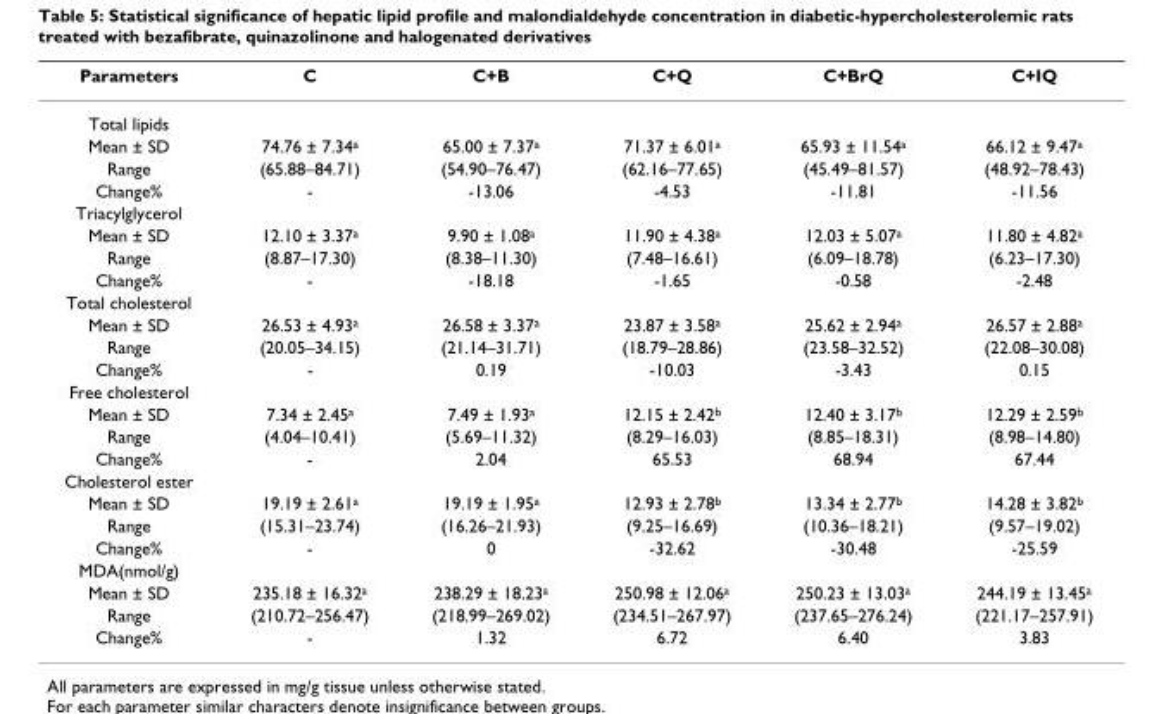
<table><thead><tr><td>Parameters</td><td>C</td><td>C+B</td><td>C+Q</td><td>C+BrQ</td><td>C+IQ</td></tr></thead><tbody><tr><td colspan="6">Total lipids</td></tr><tr><td>Mean ± SD</td><td>74.76 ± 7.34<sup>a</sup></td><td>65.00 ± 7.37<sup>a</sup></td><td>71.37 ± 6.01<sup>a</sup></td><td>65.93 ± 11.54<sup>a</sup></td><td>66.12 ± 9.47<sup>a</sup></td></tr><tr><td>Range</td><td>(65.88–84.71)</td><td>(54.90–76.47)</td><td>(62.16–77.65)</td><td>(45.49–81.57)</td><td>(48.92–78.43)</td></tr><tr><td>Change%</td><td>-</td><td>-13.06</td><td>-4.53</td><td>-11.81</td><td>-11.56</td></tr><tr><td colspan="6">Triacylglycerol</td></tr><tr><td>Mean ± SD</td><td>12.10 ± 3.37<sup>a</sup></td><td>9.90 ± 1.08<sup>a</sup></td><td>11.90 ± 4.38<sup>a</sup></td><td>12.03 ± 5.07<sup>a</sup></td><td>11.80 ± 4.82<sup>a</sup></td></tr><tr><td>Range</td><td>(8.87–17.30)</td><td>(8.38–11.30)</td><td>(7.48–16.61)</td><td>(6.09–18.78)</td><td>(6.23–17.30)</td></tr><tr><td>Change%</td><td>-</td><td>-18.18</td><td>-1.65</td><td>-0.58</td><td>-2.48</td></tr><tr><td colspan="6">Total cholesterol</td></tr><tr><td>Mean ± SD</td><td>26.53 ± 4.93<sup>a</sup></td><td>26.58 ± 3.37<sup>a</sup></td><td>23.87 ± 3.58<sup>a</sup></td><td>25.62 ± 2.94<sup>a</sup></td><td>26.57 ± 2.88<sup>a</sup></td></tr><tr><td>Range</td><td>(20.05–34.15)</td><td>(21.14–31.71)</td><td>(18.79–28.86)</td><td>(23.58–32.52)</td><td>(22.08–30.08)</td></tr><tr><td>Change%</td><td>-</td><td>0.19</td><td>-10.03</td><td>-3.43</td><td>0.15</td></tr><tr><td colspan="6">Free cholesterol</td></tr><tr><td>Mean ± SD</td><td>7.34 ± 2.45<sup>a</sup></td><td>7.49 ± 1.93<sup>a</sup></td><td>12.15 ± 2.42<sup>b</sup></td><td>12.40 ± 3.17<sup>b</sup></td><td>12.29 ± 2.59<sup>b</sup></td></tr><tr><td>Range</td><td>(4.04–10.41)</td><td>(5.69–11.32)</td><td>(8.29–16.03)</td><td>(8.85–18.31)</td><td>(8.98–14.80)</td></tr><tr><td>Change%</td><td>-</td><td>2.04</td><td>65.53</td><td>68.94</td><td>67.44</td></tr><tr><td colspan="6">Cholesterol ester</td></tr><tr><td>Mean ± SD</td><td>19.19 ± 2.61<sup>a</sup></td><td>19.19 ± 1.95<sup>a</sup></td><td>12.93 ± 2.78<sup>b</sup></td><td>13.34 ± 2.77<sup>b</sup></td><td>14.28 ± 3.82<sup>b</sup></td></tr><tr><td>Range</td><td>(15.31–23.74)</td><td>(16.26–21.93)</td><td>(9.25–16.69)</td><td>(10.36–18.21)</td><td>(9.57–19.02)</td></tr><tr><td>Change%</td><td>-</td><td>0</td><td>-32.62</td><td>-30.48</td><td>-25.59</td></tr><tr><td colspan="6">MDA(nmol/g)</td></tr><tr><td>Mean ± SD</td><td>235.18 ± 16.32<sup>a</sup></td><td>238.29 ± 18.23<sup>a</sup></td><td>250.98 ± 12.06<sup>a</sup></td><td>250.23 ± 13.03<sup>a</sup></td><td>244.19 ± 13.45<sup>a</sup></td></tr><tr><td>Range</td><td>(210.72–256.47)</td><td>(218.99–269.02)</td><td>(234.51–267.97)</td><td>(237.65–276.24)</td><td>(221.17–257.91)</td></tr><tr><td>Change%</td><td>-</td><td>1.32</td><td>6.72</td><td>6.40</td><td>3.83</td></tr></tbody></table>